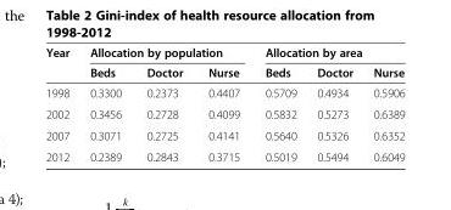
<table><thead><tr><td rowspan="2">Year</td><td colspan="3">Allocation by population</td><td colspan="3">Allocation by area</td></tr><tr><td>Beds</td><td>Doctor</td><td>Nurse</td><td>Beds</td><td>Doctor</td><td>Nurse</td></tr></thead><tbody><tr><td>1998</td><td>0.3300</td><td>0.2373</td><td>0.4407</td><td>0.5709</td><td>0.4934</td><td>0.5906</td></tr><tr><td>2002</td><td>0.3456</td><td>0.2728</td><td>0.4099</td><td>0.5832</td><td>0.5273</td><td>0.6389</td></tr><tr><td>2007</td><td>0.3071</td><td>0.2725</td><td>0.4141</td><td>0.5640</td><td>0.5326</td><td>0.6352</td></tr><tr><td>2012</td><td>0.2389</td><td>0.2843</td><td>0.3715</td><td>0.5019</td><td>0.5494</td><td>0.6049</td></tr></tbody></table>